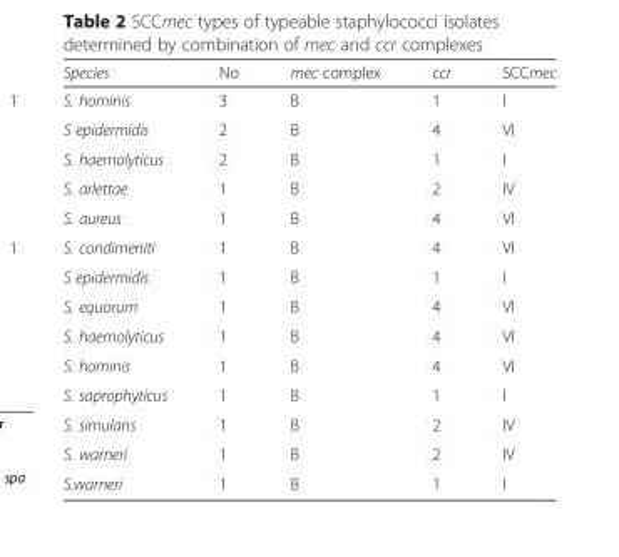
<table><thead><tr><td>Species</td><td>No</td><td>mec complex</td><td>ccr</td><td>SCCmec</td></tr></thead><tbody><tr><td>S. hominis</td><td>3</td><td>B</td><td>1</td><td>I</td></tr><tr><td>S epidermidis</td><td>2</td><td>B</td><td>4</td><td>VI</td></tr><tr><td>S. haemolyticus</td><td>2</td><td>B</td><td>1</td><td>I</td></tr><tr><td>S. arlettae</td><td>1</td><td>B</td><td>2</td><td>IV</td></tr><tr><td>S. aureus</td><td>1</td><td>B</td><td>4</td><td>VI</td></tr><tr><td>S. condimeniti</td><td>1</td><td>B</td><td>4</td><td>VI</td></tr><tr><td>S epidermidis</td><td>1</td><td>B</td><td>1</td><td>I</td></tr><tr><td>S. equorum</td><td>1</td><td>B</td><td>4</td><td>VI</td></tr><tr><td>S. haemolyticus</td><td>1</td><td>B</td><td>4</td><td>VI</td></tr><tr><td>S. hominis</td><td>1</td><td>B</td><td>4</td><td>VI</td></tr><tr><td>S. saprophyticus</td><td>1</td><td>B</td><td>1</td><td>I</td></tr><tr><td>S. simulans</td><td>1</td><td>B</td><td>2</td><td>IV</td></tr><tr><td>S. warneri</td><td>1</td><td>B</td><td>2</td><td>IV</td></tr><tr><td>S.warneri</td><td>1</td><td>B</td><td>1</td><td>I</td></tr></tbody></table>